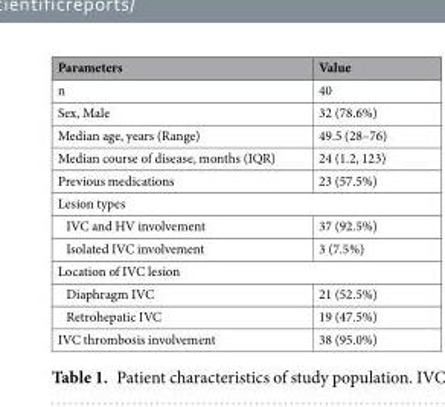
<table><thead><tr><td>Parameters</td><td>Value</td></tr></thead><tbody><tr><td>n</td><td>40</td></tr><tr><td>Sex, Male</td><td>32 (78.6%)</td></tr><tr><td>Median age, years (Range)</td><td>49.5 (28–76)</td></tr><tr><td>Median course of disease, months (IQR)</td><td>24 (1.2, 123)</td></tr><tr><td>Previous medications</td><td>23 (57.5%)</td></tr><tr><td colspan="2">Lesion types</td></tr><tr><td>IVC and HV involvement</td><td>37 (92.5%)</td></tr><tr><td>Isolated IVC involvement</td><td>3 (7.5%)</td></tr><tr><td colspan="2">Location of IVC lesion</td></tr><tr><td>Diaphragm IVC</td><td>21 (52.5%)</td></tr><tr><td>Retrohepatic IVC</td><td>19 (47.5%)</td></tr><tr><td>IVC thrombosis involvement</td><td>38 (95.0%)</td></tr></tbody></table>